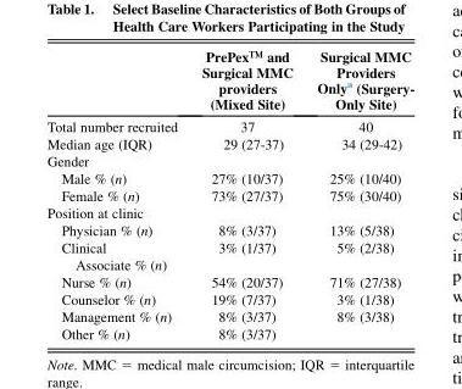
<table><thead><tr><td></td><td>PrePex™ and Surgical MMC providers (Mixed Site)</td><td>Surgical MMC Providers Only<sup>a</sup> (Surgery- Only Site)</td></tr></thead><tbody><tr><td>Total number recruited</td><td>37</td><td>40</td></tr><tr><td>Median age (IQR)</td><td>29 (27-37)</td><td>34 (29-42)</td></tr><tr><td colspan="3">Gender</td></tr><tr><td>Male % (n)</td><td>27% (10/37)</td><td>25% (10/40)</td></tr><tr><td>Female % (n)</td><td>73% (27/37)</td><td>75% (30/40)</td></tr><tr><td colspan="3">Position at clinic</td></tr><tr><td>Physician % (n)</td><td>8% (3/37)</td><td>13% (5/38)</td></tr><tr><td>Clinical Associate % (n)</td><td>3% (1/37)</td><td>5% (2/38)</td></tr><tr><td>Nurse % (n)</td><td>54% (20/37)</td><td>71% (27/38)</td></tr><tr><td>Counselor % (n)</td><td>19% (7/37)</td><td>3% (1/38)</td></tr><tr><td>Management % (n)</td><td>8% (3/37)</td><td>8% (3/38)</td></tr><tr><td>Other % (n)</td><td>8% (3/37)</td><td></td></tr></tbody></table>